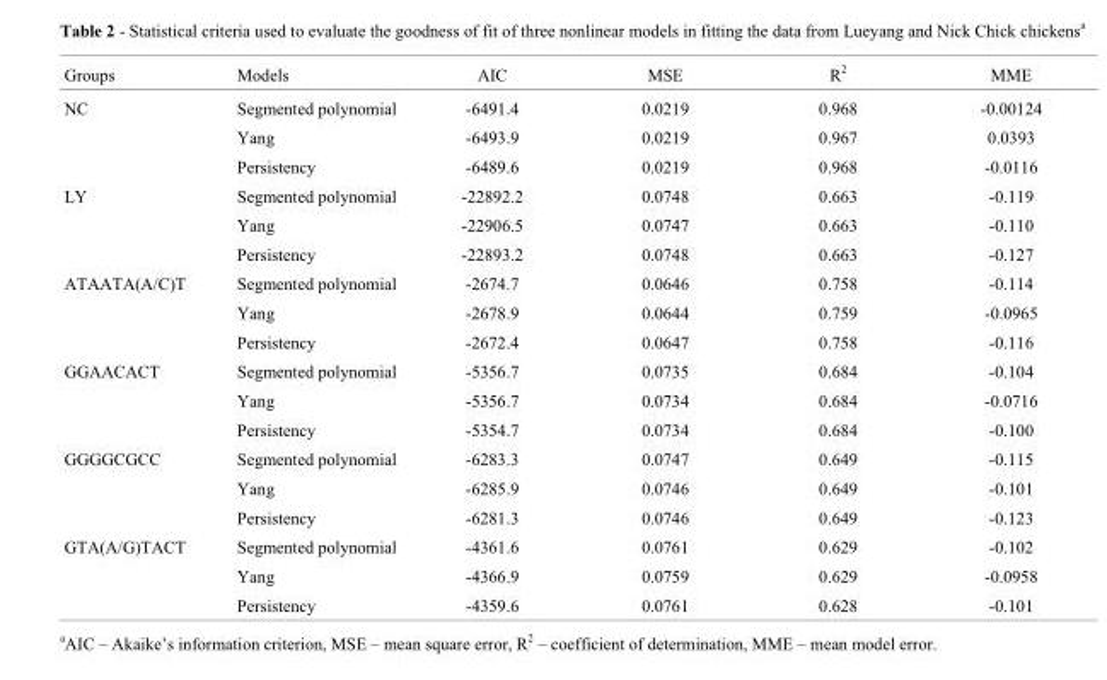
<table><thead><tr><td>Groups</td><td>Models</td><td>AIC</td><td>MSE</td><td>R<sup>2</sup></td><td>MME</td></tr></thead><tbody><tr><td rowspan="3">NC</td><td>Segmented polynomial</td><td>-6491.4</td><td>0.0219</td><td>0.968</td><td>-0.00124</td></tr><tr><td>Yang</td><td>-6493.9</td><td>0.0219</td><td>0.967</td><td>0.0393</td></tr><tr><td>Persistency</td><td>-6489.6</td><td>0.0219</td><td>0.968</td><td>-0.0116</td></tr><tr><td rowspan="3">LY</td><td>Segmented polynomial</td><td>-22892.2</td><td>0.0748</td><td>0.663</td><td>-0.119</td></tr><tr><td>Yang</td><td>-22906.5</td><td>0.0747</td><td>0.663</td><td>-0.110</td></tr><tr><td>Persistency</td><td>-22893.2</td><td>0.0748</td><td>0.663</td><td>-0.127</td></tr><tr><td rowspan="3">ATAATA(A/C)T</td><td>Segmented polynomial</td><td>-2674.7</td><td>0.0646</td><td>0.758</td><td>-0.114</td></tr><tr><td>Yang</td><td>-2678.9</td><td>0.0644</td><td>0.759</td><td>-0.0965</td></tr><tr><td>Persistency</td><td>-2672.4</td><td>0.0647</td><td>0.758</td><td>-0.116</td></tr><tr><td rowspan="3">GGAACACT</td><td>Segmented polynomial</td><td>-5356.7</td><td>0.0735</td><td>0.684</td><td>-0.104</td></tr><tr><td>Yang</td><td>-5356.7</td><td>0.0734</td><td>0.684</td><td>-0.0716</td></tr><tr><td>Persistency</td><td>-5354.7</td><td>0.0734</td><td>0.684</td><td>-0.100</td></tr><tr><td rowspan="3">GGGGCGCC</td><td>Segmented polynomial</td><td>-6283.3</td><td>0.0747</td><td>0.649</td><td>-0.115</td></tr><tr><td>Yang</td><td>-6285.9</td><td>0.0746</td><td>0.649</td><td>-0.101</td></tr><tr><td>Persistency</td><td>-6281.3</td><td>0.0746</td><td>0.649</td><td>-0.123</td></tr><tr><td rowspan="3">GTA(A/G)TACT</td><td>Segmented polynomial</td><td>-4361.6</td><td>0.0761</td><td>0.629</td><td>-0.102</td></tr><tr><td>Yang</td><td>-4366.9</td><td>0.0759</td><td>0.629</td><td>-0.0958</td></tr><tr><td>Persistency</td><td>-4359.6</td><td>0.0761</td><td>0.628</td><td>-0.101</td></tr></tbody></table>